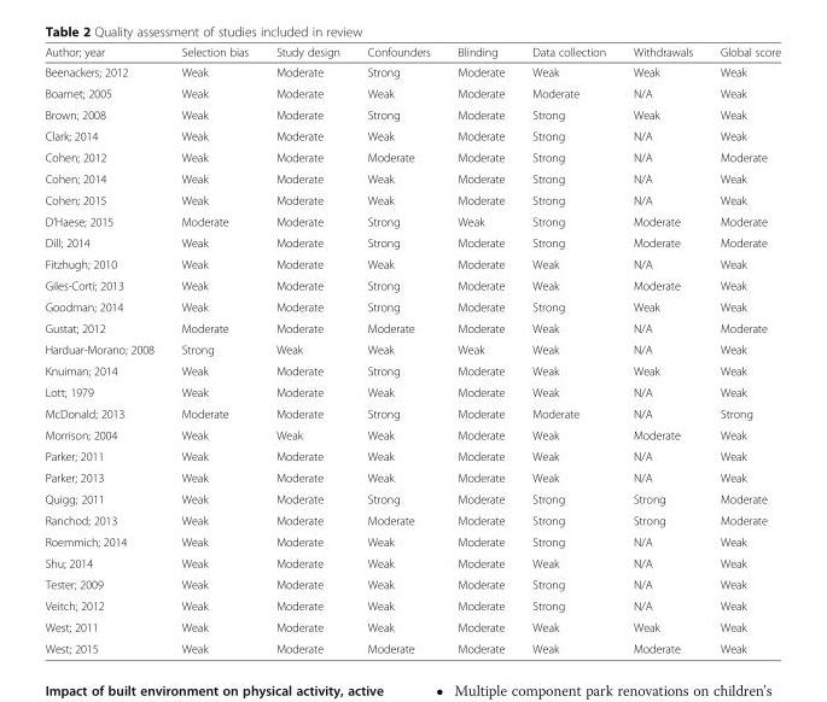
<table><thead><tr><td>Author; year</td><td>Selection bias</td><td>Study design</td><td>Confounders</td><td>Blinding</td><td>Data collection</td><td>Withdrawals</td><td>Global score</td></tr></thead><tbody><tr><td>Beenackers; 2012</td><td>Weak</td><td>Moderate</td><td>Strong</td><td>Moderate</td><td>Weak</td><td>Weak</td><td>Weak</td></tr><tr><td>Boarnet; 2005</td><td>Weak</td><td>Moderate</td><td>Weak</td><td>Moderate</td><td>Moderate</td><td>N/A</td><td>Weak</td></tr><tr><td>Brown; 2008</td><td>Weak</td><td>Moderate</td><td>Strong</td><td>Moderate</td><td>Strong</td><td>Weak</td><td>Weak</td></tr><tr><td>Clark; 2014</td><td>Weak</td><td>Moderate</td><td>Weak</td><td>Moderate</td><td>Strong</td><td>N/A</td><td>Weak</td></tr><tr><td>Cohen; 2012</td><td>Weak</td><td>Moderate</td><td>Moderate</td><td>Moderate</td><td>Strong</td><td>N/A</td><td>Moderate</td></tr><tr><td>Cohen; 2014</td><td>Weak</td><td>Moderate</td><td>Weak</td><td>Moderate</td><td>Strong</td><td>N/A</td><td>Weak</td></tr><tr><td>Cohen; 2015</td><td>Weak</td><td>Moderate</td><td>Weak</td><td>Moderate</td><td>Strong</td><td>N/A</td><td>Weak</td></tr><tr><td>D’Haese; 2015</td><td>Moderate</td><td>Moderate</td><td>Strong</td><td>Weak</td><td>Strong</td><td>Moderate</td><td>Moderate</td></tr><tr><td>Dill; 2014</td><td>Weak</td><td>Moderate</td><td>Strong</td><td>Moderate</td><td>Strong</td><td>Moderate</td><td>Moderate</td></tr><tr><td>Fitzhugh; 2010</td><td>Weak</td><td>Moderate</td><td>Weak</td><td>Moderate</td><td>Weak</td><td>N/A</td><td>Weak</td></tr><tr><td>Giles-Corti; 2013</td><td>Weak</td><td>Moderate</td><td>Strong</td><td>Moderate</td><td>Weak</td><td>Moderate</td><td>Weak</td></tr><tr><td>Goodman; 2014</td><td>Weak</td><td>Moderate</td><td>Strong</td><td>Moderate</td><td>Strong</td><td>Weak</td><td>Weak</td></tr><tr><td>Gustat; 2012</td><td>Moderate</td><td>Moderate</td><td>Moderate</td><td>Moderate</td><td>Weak</td><td>N/A</td><td>Moderate</td></tr><tr><td>Harduar-Morano; 2008</td><td>Strong</td><td>Weak</td><td>Weak</td><td>Weak</td><td>Weak</td><td>N/A</td><td>Weak</td></tr><tr><td>Knuiman; 2014</td><td>Weak</td><td>Moderate</td><td>Strong</td><td>Moderate</td><td>Weak</td><td>Weak</td><td>Weak</td></tr><tr><td>Lott; 1979</td><td>Weak</td><td>Moderate</td><td>Weak</td><td>Moderate</td><td>Weak</td><td>N/A</td><td>Weak</td></tr><tr><td>McDonald; 2013</td><td>Moderate</td><td>Moderate</td><td>Strong</td><td>Moderate</td><td>Moderate</td><td>N/A</td><td>Strong</td></tr><tr><td>Morrison; 2004</td><td>Weak</td><td>Weak</td><td>Weak</td><td>Moderate</td><td>Weak</td><td>Moderate</td><td>Weak</td></tr><tr><td>Parker; 2011</td><td>Weak</td><td>Moderate</td><td>Weak</td><td>Moderate</td><td>Weak</td><td>N/A</td><td>Weak</td></tr><tr><td>Parker; 2013</td><td>Weak</td><td>Moderate</td><td>Weak</td><td>Moderate</td><td>Weak</td><td>N/A</td><td>Weak</td></tr><tr><td>Quigg; 2011</td><td>Weak</td><td>Moderate</td><td>Strong</td><td>Moderate</td><td>Strong</td><td>Strong</td><td>Moderate</td></tr><tr><td>Ranchod; 2013</td><td>Weak</td><td>Moderate</td><td>Moderate</td><td>Moderate</td><td>Strong</td><td>Strong</td><td>Moderate</td></tr><tr><td>Roemmich; 2014</td><td>Weak</td><td>Moderate</td><td>Weak</td><td>Moderate</td><td>Strong</td><td>N/A</td><td>Weak</td></tr><tr><td>Shu; 2014</td><td>Weak</td><td>Moderate</td><td>Weak</td><td>Moderate</td><td>Weak</td><td>N/A</td><td>Weak</td></tr><tr><td>Tester; 2009</td><td>Weak</td><td>Moderate</td><td>Weak</td><td>Moderate</td><td>Strong</td><td>N/A</td><td>Weak</td></tr><tr><td>Veitch; 2012</td><td>Weak</td><td>Moderate</td><td>Weak</td><td>Moderate</td><td>Strong</td><td>N/A</td><td>Weak</td></tr><tr><td>West; 2011</td><td>Weak</td><td>Moderate</td><td>Weak</td><td>Moderate</td><td>Weak</td><td>Weak</td><td>Weak</td></tr><tr><td>West; 2015</td><td>Weak</td><td>Moderate</td><td>Moderate</td><td>Moderate</td><td>Weak</td><td>Moderate</td><td>Weak</td></tr></tbody></table>